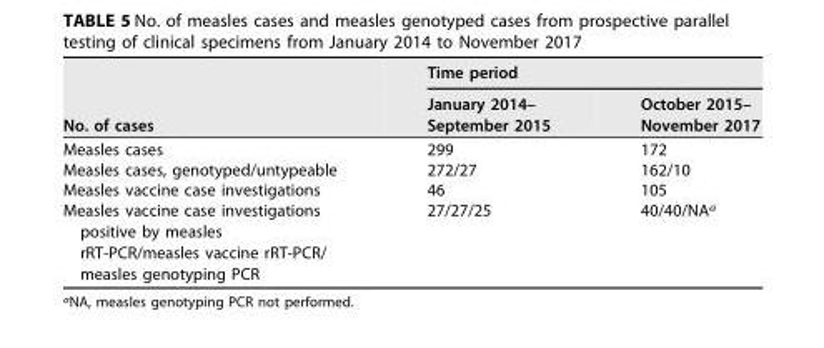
<table><thead><tr><td rowspan="2">No. of cases</td><td colspan="2">Time period</td></tr><tr><td>January 2014– September 2015</td><td>October 2015– November 2017</td></tr></thead><tbody><tr><td>Measles cases</td><td>299</td><td>172</td></tr><tr><td>Measles cases, genotyped/untypeable</td><td>272/27</td><td>162/10</td></tr><tr><td>Measles vaccine case investigations</td><td>46</td><td>105</td></tr><tr><td>Measles vaccine case investigations positive by measles rRT-PCR/measles vaccine rRT-PCR/ measles genotyping PCR</td><td>27/27/25</td><td>40/40/NA<sup>a</sup></td></tr></tbody></table>